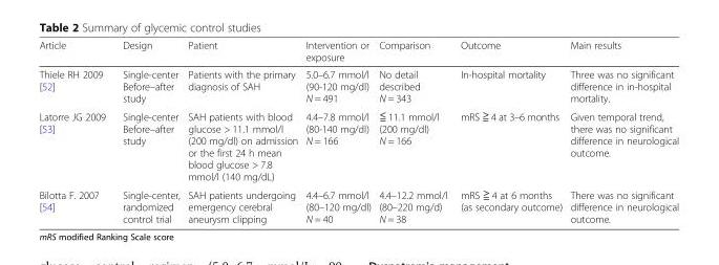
<table><thead><tr><td>Article</td><td>Design</td><td>Patient</td><td>Intervention or exposure</td><td>Comparison</td><td>Outcome</td><td>Main results</td></tr></thead><tbody><tr><td>Thiele RH 2009 [52]</td><td>Single-center Before–after study</td><td>Patients with the primary diagnosis of SAH</td><td>5.0–6.7 mmol/l (90-120 mg/dl) N = 491</td><td>No detail described N = 343</td><td>In-hospital mortality</td><td>Three was no significant difference in in-hospital mortality.</td></tr><tr><td>Latorre JG 2009 [53]</td><td>Single-center Before–after study</td><td>SAH patients with blood glucose &gt; 11.1 mmol/l (200 mg/dl) on admission or the first 24 h mean blood glucose &gt; 7.8 mmol/l (140 mg/dL)</td><td>4.4–7.8 mmol/l (80-140 mg/dl) N = 166</td><td>≦ 11.1 mmol/l (200 mg/dl) N = 166</td><td>mRS ≧ 4 at 3–6 months</td><td>Given temporal trend, there was no significant difference in neurological outcome.</td></tr><tr><td>Bilotta F. 2007 [54]</td><td>Single-center, randomized control trial</td><td>SAH patients undergoing emergency cerebral aneurysm clipping</td><td>4.4–6.7 mmol/l (80–120 mg/dl) N = 40</td><td>4.4–12.2 mmol/l (80–220 mg/d) N = 38</td><td>mRS ≧ 4 at 6 months (as secondary outcome)</td><td>There was no significant difference in neurological outcome.</td></tr></tbody></table>